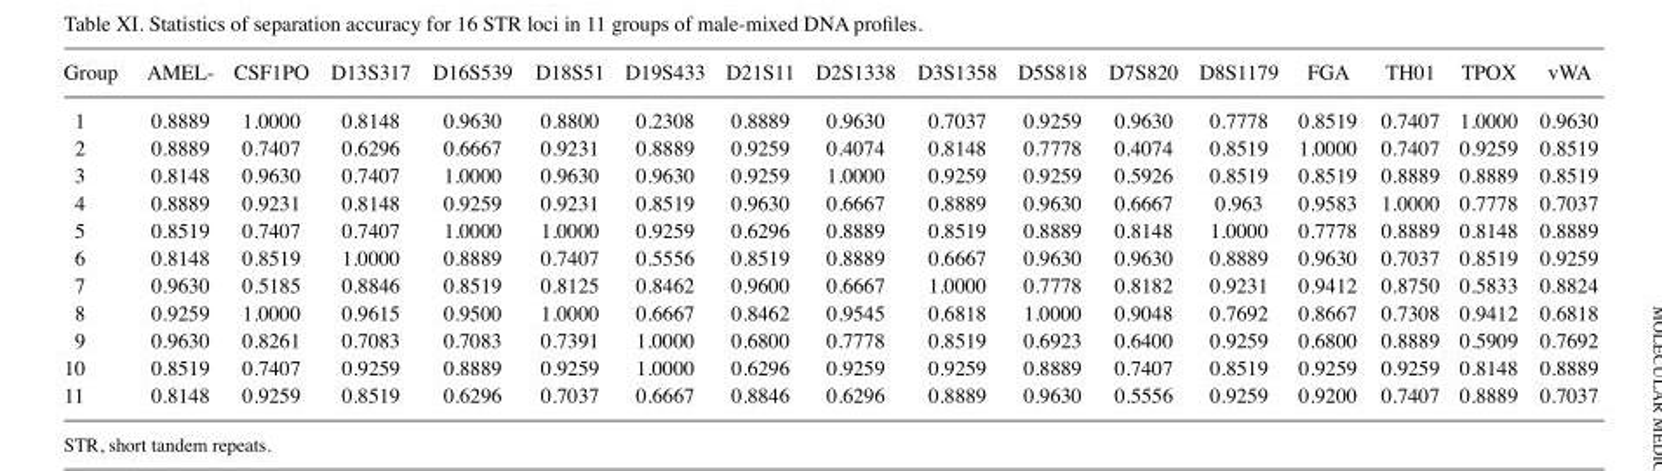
<table><thead><tr><td>Group</td><td>AMEL‑</td><td>CSF1PO</td><td>D13S317</td><td>D16S539</td><td>D18S51</td><td>D19S433</td><td>D21S11</td><td>D2S1338</td><td>D3S1358</td><td>D5S818</td><td>D7S820</td><td>D8S1179</td><td>FGA</td><td>TH01</td><td>TPOX</td><td>vWA</td></tr></thead><tbody><tr><td>1</td><td>0.8889</td><td>1.0000</td><td>0.8148</td><td>0.9630</td><td>0.8800</td><td>0.2308</td><td>0.8889</td><td>0.9630</td><td>0.7037</td><td>0.9259</td><td>0.9630</td><td>0.7778</td><td>0.8519</td><td>0.7407</td><td>1.0000</td><td>0.9630</td></tr><tr><td>2</td><td>0.8889</td><td>0.7407</td><td>0.6296</td><td>0.6667</td><td>0.9231</td><td>0.8889</td><td>0.9259</td><td>0.4074</td><td>0.8148</td><td>0.7778</td><td>0.4074</td><td>0.8519</td><td>1.0000</td><td>0.7407</td><td>0.9259</td><td>0.8519</td></tr><tr><td>3</td><td>0.8148</td><td>0.9630</td><td>0.7407</td><td>1.0000</td><td>0.9630</td><td>0.9630</td><td>0.9259</td><td>1.0000</td><td>0.9259</td><td>0.9259</td><td>0.5926</td><td>0.8519</td><td>0.8519</td><td>0.8889</td><td>0.8889</td><td>0.8519</td></tr><tr><td>4</td><td>0.8889</td><td>0.9231</td><td>0.8148</td><td>0.9259</td><td>0.9231</td><td>0.8519</td><td>0.9630</td><td>0.6667</td><td>0.8889</td><td>0.9630</td><td>0.6667</td><td>0.963</td><td>0.9583</td><td>1.0000</td><td>0.7778</td><td>0.7037</td></tr><tr><td>5</td><td>0.8519</td><td>0.7407</td><td>0.7407</td><td>1.0000</td><td>1.0000</td><td>0.9259</td><td>0.6296</td><td>0.8889</td><td>0.8519</td><td>0.8889</td><td>0.8148</td><td>1.0000</td><td>0.7778</td><td>0.8889</td><td>0.8148</td><td>0.8889</td></tr><tr><td>6</td><td>0.8148</td><td>0.8519</td><td>1.0000</td><td>0.8889</td><td>0.7407</td><td>0.5556</td><td>0.8519</td><td>0.8889</td><td>0.6667</td><td>0.9630</td><td>0.9630</td><td>0.8889</td><td>0.9630</td><td>0.7037</td><td>0.8519</td><td>0.9259</td></tr><tr><td>7</td><td>0.9630</td><td>0.5185</td><td>0.8846</td><td>0.8519</td><td>0.8125</td><td>0.8462</td><td>0.9600</td><td>0.6667</td><td>1.0000</td><td>0.7778</td><td>0.8182</td><td>0.9231</td><td>0.9412</td><td>0.8750</td><td>0.5833</td><td>0.8824</td></tr><tr><td>8</td><td>0.9259</td><td>1.0000</td><td>0.9615</td><td>0.9500</td><td>1.0000</td><td>0.6667</td><td>0.8462</td><td>0.9545</td><td>0.6818</td><td>1.0000</td><td>0.9048</td><td>0.7692</td><td>0.8667</td><td>0.7308</td><td>0.9412</td><td>0.6818</td></tr><tr><td>9</td><td>0.9630</td><td>0.8261</td><td>0.7083</td><td>0.7083</td><td>0.7391</td><td>1.0000</td><td>0.6800</td><td>0.7778</td><td>0.8519</td><td>0.6923</td><td>0.6400</td><td>0.9259</td><td>0.6800</td><td>0.8889</td><td>0.5909</td><td>0.7692</td></tr><tr><td>10</td><td>0.8519</td><td>0.7407</td><td>0.9259</td><td>0.8889</td><td>0.9259</td><td>1.0000</td><td>0.6296</td><td>0.9259</td><td>0.9259</td><td>0.8889</td><td>0.7407</td><td>0.8519</td><td>0.9259</td><td>0.9259</td><td>0.8148</td><td>0.8889</td></tr><tr><td>11</td><td>0.8148</td><td>0.9259</td><td>0.8519</td><td>0.6296</td><td>0.7037</td><td>0.6667</td><td>0.8846</td><td>0.6296</td><td>0.8889</td><td>0.9630</td><td>0.5556</td><td>0.9259</td><td>0.9200</td><td>0.7407</td><td>0.8889</td><td>0.7037</td></tr></tbody></table>